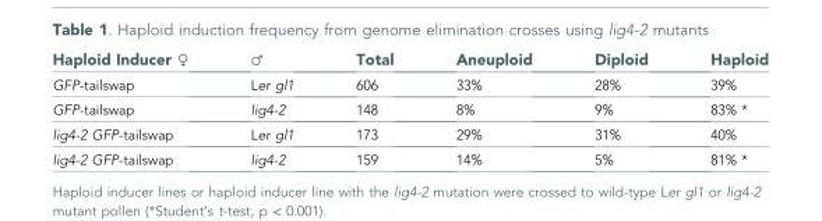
<table><thead><tr><td>Haploid Inducer ♀</td><td>♂</td><td>Total</td><td>Aneuploid</td><td>Diploid</td><td>Haploid</td></tr></thead><tbody><tr><td>GFP-tailswap</td><td>Ler gl1</td><td>606</td><td>33%</td><td>28%</td><td>39%</td></tr><tr><td>GFP-tailswap</td><td>lig4-2</td><td>148</td><td>8%</td><td>9%</td><td>83% *</td></tr><tr><td>lig4-2 GFP-tailswap</td><td>Ler gl1</td><td>173</td><td>29%</td><td>31%</td><td>40%</td></tr><tr><td>lig4-2 GFP-tailswap</td><td>lig4-2</td><td>159</td><td>14%</td><td>5%</td><td>81% *</td></tr></tbody></table>